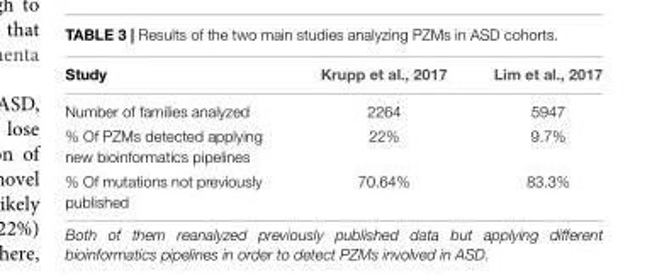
<table><thead><tr><td>Study</td><td>Krupp et al., 2017</td><td>Lim et al., 2017</td></tr></thead><tbody><tr><td>Number of families analyzed</td><td>2264</td><td>5947</td></tr><tr><td>% Of PZMs detected applying new bioinformatics pipelines</td><td>22%</td><td>9.7%</td></tr><tr><td>% Of mutations not previously published</td><td>70.64%</td><td>83.3%</td></tr></tbody></table>